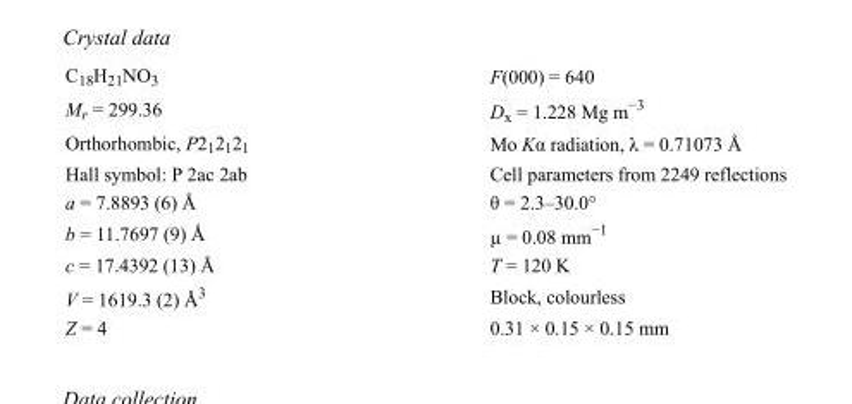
<table><tbody><tr><td>C<sub>18</sub>H<sub>21</sub>NO<sub>3</sub></td><td>F(000) = 640</td></tr><tr><td>M<sub>r</sub> = 299.36</td><td>D<sub>x</sub> = 1.228 Mg m<sup>−3</sup></td></tr><tr><td>Orthorhombic, P2<sub>1</sub>2<sub>1</sub>2<sub>1</sub></td><td>Mo Kα radiation, λ = 0.71073 Å</td></tr><tr><td>Hall symbol: P 2ac 2ab</td><td>Cell parameters from 2249 reflections</td></tr><tr><td>a = 7.8893 (6) Å</td><td>θ = 2.3–30.0°</td></tr><tr><td>b = 11.7697 (9) Å</td><td>µ = 0.08 mm<sup>−1</sup></td></tr><tr><td>c = 17.4392 (13) Å</td><td>T = 120 K</td></tr><tr><td>V = 1619.3 (2) Å<sup>3</sup></td><td>Block, colourless</td></tr><tr><td>Z = 4</td><td>0.31 × 0.15 × 0.15 mm</td></tr></tbody></table>